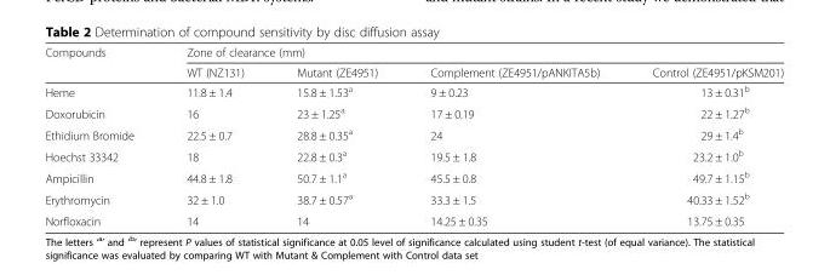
<table><thead><tr><td rowspan="2">Compounds</td><td colspan="4">Zone of clearance (mm)</td></tr><tr><td>WT (NZ131)</td><td>Mutant (ZE4951)</td><td>Complement (ZE4951/pANKITA5b)</td><td>Control (ZE4951/pKSM201)</td></tr></thead><tbody><tr><td>Heme</td><td>11.8 ± 1.4</td><td>15.8 ± 1.53<sup>a</sup></td><td>9 ± 0.23</td><td>13 ± 0.31<sup>b</sup></td></tr><tr><td>Doxorubicin</td><td>16</td><td>23 ± 1.25<sup>a</sup></td><td>17 ± 0.19</td><td>22 ± 1.27<sup>b</sup></td></tr><tr><td>Ethidium Bromide</td><td>22.5 ± 0.7</td><td>28.8 ± 0.35<sup>a</sup></td><td>24</td><td>29 ± 1.4<sup>b</sup></td></tr><tr><td>Hoechst 33342</td><td>18</td><td>22.8 ± 0.3<sup>a</sup></td><td>19.5 ± 1.8</td><td>23.2 ± 1.0<sup>b</sup></td></tr><tr><td>Ampicillin</td><td>44.8 ± 1.8</td><td>50.7 ± 1.1<sup>a</sup></td><td>45.5 ± 0.8</td><td>49.7 ± 1.15<sup>b</sup></td></tr><tr><td>Erythromycin</td><td>32 ± 1.0</td><td>38.7 ± 0.57<sup>a</sup></td><td>33.3 ± 1.5</td><td>40.33 ± 1.52<sup>b</sup></td></tr><tr><td>Norfloxacin</td><td>14</td><td>14</td><td>14.25 ± 0.35</td><td>13.75 ± 0.35</td></tr></tbody></table>